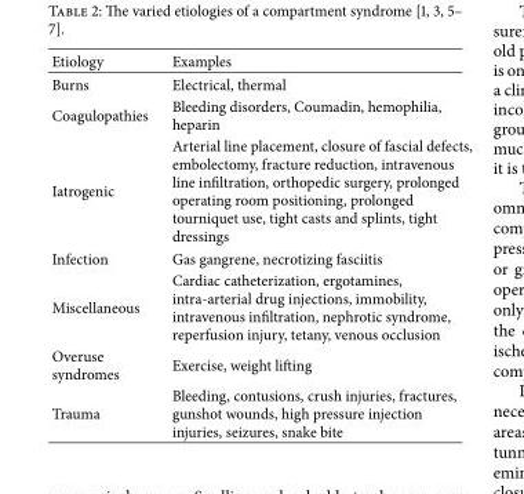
<table><thead><tr><td>Etiology</td><td>Examples</td></tr></thead><tbody><tr><td>Burns</td><td>Electrical, thermal</td></tr><tr><td>Coagulopathies</td><td>Bleeding disorders, Coumadin, hemophilia, heparin</td></tr><tr><td>Iatrogenic</td><td>Arterial line placement, closure of fascial defects, embolectomy, fracture reduction, intravenous line infiltration, orthopedic surgery, prolonged operating room positioning, prolonged tourniquet use, tight casts and splints, tight dressings</td></tr><tr><td>Infection</td><td>Gas gangrene, necrotizing fasciitis</td></tr><tr><td>Miscellaneous</td><td>Cardiac catheterization, ergotamines, intra-arterial drug injections, immobility, intravenous infiltration, nephrotic syndrome, reperfusion injury, tetany, venous occlusion</td></tr><tr><td>Overuse syndromes</td><td>Exercise, weight lifting</td></tr><tr><td>Trauma</td><td>Bleeding, contusions, crush injuries, fractures, gunshot wounds, high pressure injection injuries, seizures, snake bite</td></tr></tbody></table>